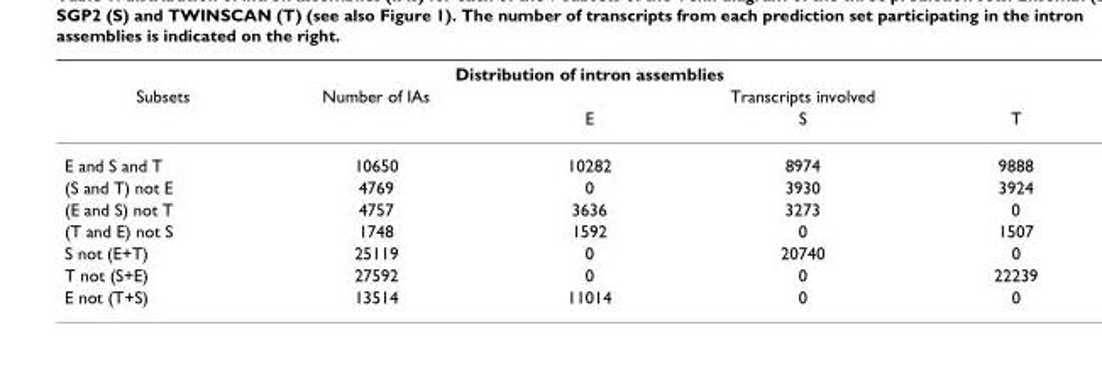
<table><thead><tr><td colspan="5">Distribution of intron assemblies</td></tr><tr><td rowspan="2">Subsets</td><td rowspan="2">Number of IAs</td><td colspan="3">Transcripts involved</td></tr><tr><td>E</td><td>S</td><td>T</td></tr></thead><tbody><tr><td>E and S and T</td><td>10650</td><td>10282</td><td>8974</td><td>9888</td></tr><tr><td>(S and T) not E</td><td>4769</td><td>0</td><td>3930</td><td>3924</td></tr><tr><td>(E and S) not T</td><td>4757</td><td>3636</td><td>3273</td><td>0</td></tr><tr><td>(T and E) not S</td><td>1748</td><td>1592</td><td>0</td><td>1507</td></tr><tr><td>S not (E+T)</td><td>25119</td><td>0</td><td>20740</td><td>0</td></tr><tr><td>T not (S+E)</td><td>27592</td><td>0</td><td>0</td><td>22239</td></tr><tr><td>E not (T+S)</td><td>13514</td><td>11014</td><td>0</td><td>0</td></tr></tbody></table>